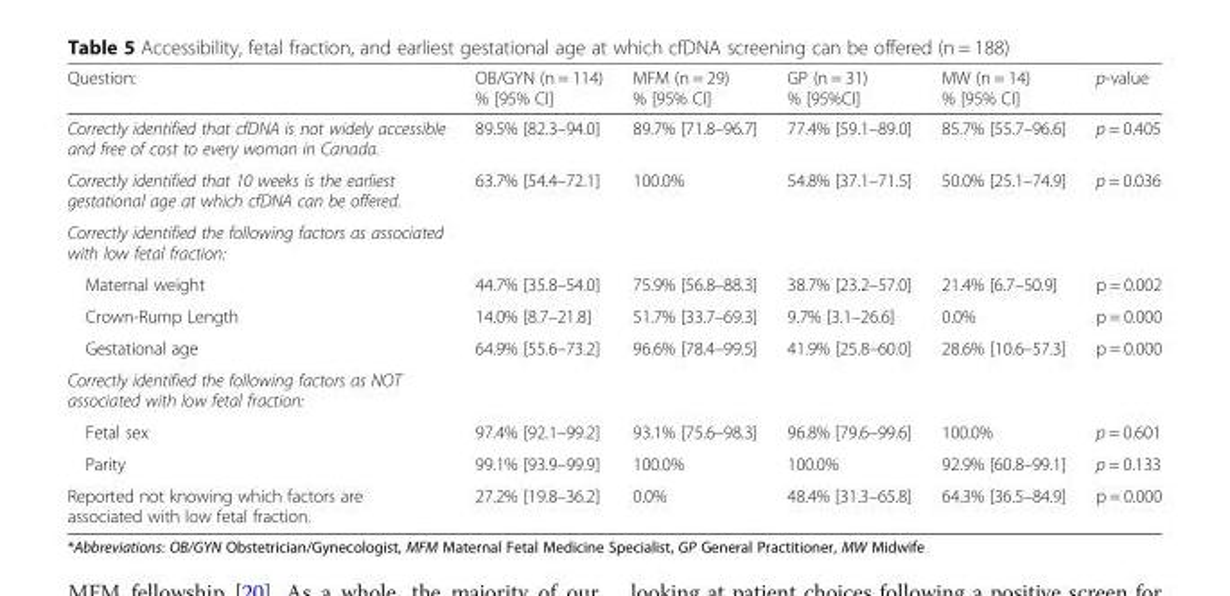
<table><thead><tr><td>Question:</td><td>OB/GYN (n = 114) % [95% CI]</td><td>MFM (n = 29) % [95% CI]</td><td>GP (n = 31) % [95%CI]</td><td>MW (n = 14) % [95% CI]</td><td>p-value</td></tr></thead><tbody><tr><td>Correctly identified that cfDNA is not widely accessible and free of cost to every woman in Canada.</td><td>89.5% [82.3–94.0]</td><td>89.7% [71.8–96.7]</td><td>77.4% [59.1–89.0]</td><td>85.7% [55.7–96.6]</td><td>p = 0.405</td></tr><tr><td>Correctly identified that 10 weeks is the earliest gestational age at which cfDNA can be offered.</td><td>63.7% [54.4–72.1]</td><td>100.0%</td><td>54.8% [37.1–71.5]</td><td>50.0% [25.1–74.9]</td><td>p = 0.036</td></tr><tr><td colspan="6">Correctly identified the following factors as associated with low fetal fraction:</td></tr><tr><td>Maternal weight</td><td>44.7% [35.8–54.0]</td><td>75.9% [56.8–88.3]</td><td>38.7% [23.2–57.0]</td><td>21.4% [6.7–50.9]</td><td>p = 0.002</td></tr><tr><td>Crown-Rump Length</td><td>14.0% [8.7–21.8]</td><td>51.7% [33.7–69.3]</td><td>9.7% [3.1–26.6]</td><td>0.0%</td><td>p = 0.000</td></tr><tr><td>Gestational age</td><td>64.9% [55.6–73.2]</td><td>96.6% [78.4–99.5]</td><td>41.9% [25.8–60.0]</td><td>28.6% [10.6–57.3]</td><td>p = 0.000</td></tr><tr><td colspan="6">Correctly identified the following factors as NOT associated with low fetal fraction:</td></tr><tr><td>Fetal sex</td><td>97.4% [92.1–99.2]</td><td>93.1% [75.6–98.3]</td><td>96.8% [79.6–99.6]</td><td>100.0%</td><td>p = 0.601</td></tr><tr><td>Parity</td><td>99.1% [93.9–99.9]</td><td>100.0%</td><td>100.0%</td><td>92.9% [60.8–99.1]</td><td>p = 0.133</td></tr><tr><td>Reported not knowing which factors are associated with low fetal fraction.</td><td>27.2% [19.8–36.2]</td><td>0.0%</td><td>48.4% [31.3–65.8]</td><td>64.3% [36.5–84.9]</td><td>p = 0.000</td></tr></tbody></table>